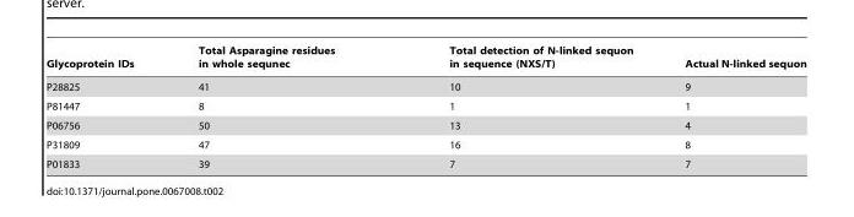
<table><thead><tr><td>Glycoprotein IDs</td><td>Total Asparagine residues in whole sequnec</td><td>Total detection of N-linked sequon in sequence (NXS/T)</td><td>Actual N-linked sequon</td></tr></thead><tbody><tr><td>P28825</td><td>41</td><td>10</td><td>9</td></tr><tr><td>P81447</td><td>8</td><td>1</td><td>1</td></tr><tr><td>P06756</td><td>50</td><td>13</td><td>4</td></tr><tr><td>P31809</td><td>47</td><td>16</td><td>8</td></tr><tr><td>P01833</td><td>39</td><td>7</td><td>7</td></tr></tbody></table>